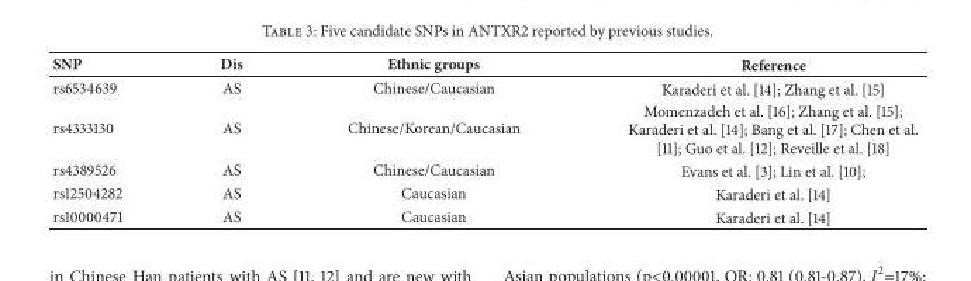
<table><thead><tr><td>SNP</td><td>Dis</td><td>Ethnic groups</td><td>Reference</td></tr></thead><tbody><tr><td>rs6534639</td><td>AS</td><td>Chinese/Caucasian</td><td>Karaderi et al. [14]; Zhang et al. [15]</td></tr><tr><td>rs4333130</td><td>AS</td><td>Chinese/Korean/Caucasian</td><td>Momenzadeh et al. [16]; Zhang et al. [15]; Karaderi et al. [14]; Bang et al. [17]; Chen et al. [11]; Guo et al. [12]; Reveille et al. [18]</td></tr><tr><td>rs4389526</td><td>AS</td><td>Chinese/Caucasian</td><td>Evans et al. [3]; Lin et al. [10];</td></tr><tr><td>rs12504282</td><td>AS</td><td>Caucasian</td><td>Karaderi et al. [14]</td></tr><tr><td>rs10000471</td><td>AS</td><td>Caucasian</td><td>Karaderi et al. [14]</td></tr></tbody></table>